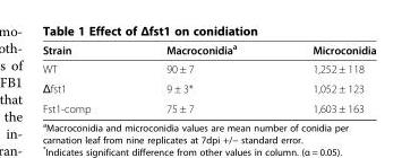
<table><thead><tr><td>Strain</td><td>Macroconidia<sup>a</sup></td><td>Microconidia</td></tr></thead><tbody><tr><td>WT</td><td>90 ± 7</td><td>1,252 ± 118</td></tr><tr><td>Δfst1</td><td>9 ± 3*</td><td>1,052 ± 123</td></tr><tr><td>Fst1-comp</td><td>75 ± 7</td><td>1,603 ± 163</td></tr></tbody></table>